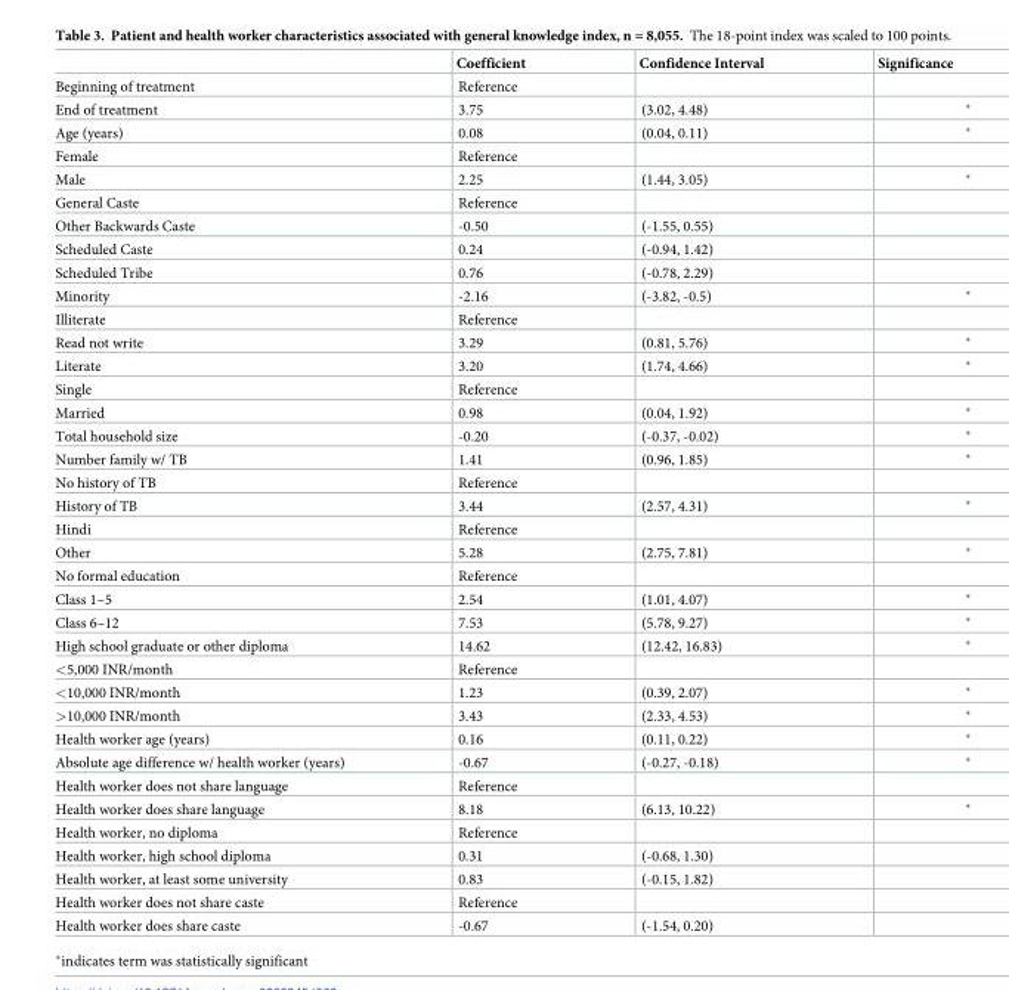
<table><thead><tr><td></td><td>Coefficient</td><td>Confidence Interval</td><td>Significance</td></tr></thead><tbody><tr><td>Beginning of treatment</td><td>Reference</td><td></td><td></td></tr><tr><td>End of treatment</td><td>3.75</td><td>(3.02, 4.48)</td><td></td></tr><tr><td>Age (years)</td><td>0.08</td><td>(0.04, 0.11)</td><td></td></tr><tr><td>Female</td><td>Reference</td><td></td><td></td></tr><tr><td>Male</td><td>2.25</td><td>(1.44, 3.05)</td><td></td></tr><tr><td>General Caste</td><td>Reference</td><td></td><td></td></tr><tr><td>Other Backwards Caste</td><td>-0.50</td><td>(-1.55, 0.55)</td><td></td></tr><tr><td>Scheduled Caste</td><td>0.24</td><td>(-0.94, 1.42)</td><td></td></tr><tr><td>Scheduled Tribe</td><td>0.76</td><td>(-0.78, 2.29)</td><td></td></tr><tr><td>Minority</td><td>-2.16</td><td>(-3.82, -0.5)</td><td></td></tr><tr><td>Illiterate</td><td>Reference</td><td></td><td></td></tr><tr><td>Read not write</td><td>3.29</td><td>(0.81, 5.76)</td><td></td></tr><tr><td>Literate</td><td>3.20</td><td>(1.74, 4.66)</td><td></td></tr><tr><td>Single</td><td>Reference</td><td></td><td></td></tr><tr><td>Married</td><td>0.98</td><td>(0.04, 1.92)</td><td></td></tr><tr><td>Total household size</td><td>-0.20</td><td>(-0.37, -0.02)</td><td></td></tr><tr><td>Number family w/ TB</td><td>1.41</td><td>(0.96, 1.85)</td><td></td></tr><tr><td>No history of TB</td><td>Reference</td><td></td><td></td></tr><tr><td>History of TB</td><td>3.44</td><td>(2.57, 4.31)</td><td></td></tr><tr><td>Hindi</td><td>Reference</td><td></td><td></td></tr><tr><td>Other</td><td>5.28</td><td>(2.75, 7.81)</td><td></td></tr><tr><td>No formal education</td><td>Reference</td><td></td><td></td></tr><tr><td>Class 1–5</td><td>2.54</td><td>(1.01, 4.07)</td><td></td></tr><tr><td>Class 6–12</td><td>7.53</td><td>(5.78, 9.27)</td><td></td></tr><tr><td>High school graduate or other diploma</td><td>14.62</td><td>(12.42, 16.83)</td><td></td></tr><tr><td>&lt;5,000 INR/month</td><td>Reference</td><td></td><td></td></tr><tr><td>&lt;10,000 INR/month</td><td>1.23</td><td>(0.39, 2.07)</td><td></td></tr><tr><td>&gt;10,000 INR/month</td><td>3.43</td><td>(2.33, 4.53)</td><td></td></tr><tr><td>Health worker age (years)</td><td>0.16</td><td>(0.11, 0.22)</td><td></td></tr><tr><td>Absolute age difference w/ health worker (years)</td><td>-0.67</td><td>(-0.27, -0.18)</td><td></td></tr><tr><td>Health worker does not share language</td><td>Reference</td><td></td><td></td></tr><tr><td>Health worker does share language</td><td>8.18</td><td>(6.13, 10.22)</td><td></td></tr><tr><td>Health worker, no diploma</td><td>Reference</td><td></td><td></td></tr><tr><td>Health worker, high school diploma</td><td>0.31</td><td>(-0.68, 1.30)</td><td></td></tr><tr><td>Health worker, at least some university</td><td>0.83</td><td>(-0.15, 1.82)</td><td></td></tr><tr><td>Health worker does not share caste</td><td>Reference</td><td></td><td></td></tr><tr><td>Health worker does share caste</td><td>-0.67</td><td>(-1.54, 0.20)</td><td></td></tr></tbody></table>